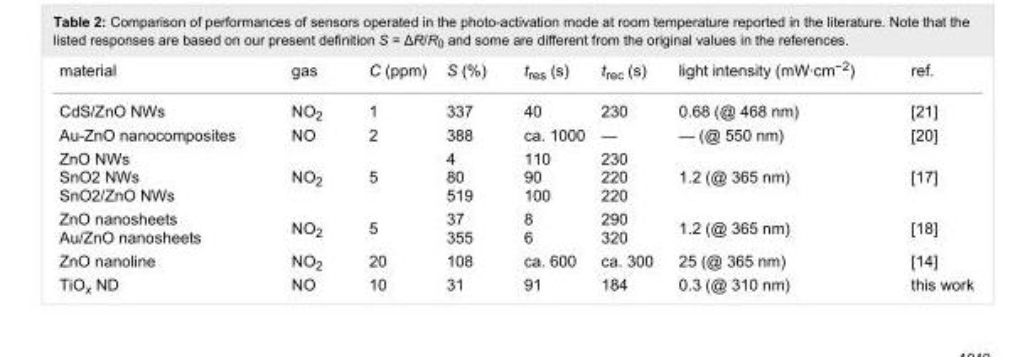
<table><tbody><tr><td>material</td><td>gas</td><td>C (ppm)</td><td>S (%)</td><td>t<sub>res</sub> (s)</td><td>t<sub>rec</sub> (s)</td><td>light intensity (mW·cm<sup>−2</sup>)</td><td>ref.</td></tr><tr><td>CdS/ZnO NWs</td><td>NO<sub>2</sub></td><td>1</td><td>337</td><td>40</td><td>230</td><td>0.68 (@ 468 nm)</td><td>[21]</td></tr><tr><td>Au-ZnO nanocomposites</td><td>NO</td><td>2</td><td>388</td><td>ca. 1000</td><td>—</td><td>— (@ 550 nm)</td><td>[20]</td></tr><tr><td>ZnO NWs SnO2 NWs SnO2/ZnO NWs</td><td>NO<sub>2</sub></td><td>5</td><td>4 80 519</td><td>110 90 100</td><td>230 220 220</td><td>1.2 (@ 365 nm)</td><td>[17]</td></tr><tr><td>ZnO nanosheets Au/ZnO nanosheets</td><td>NO<sub>2</sub></td><td>5</td><td>37 355</td><td>8 6</td><td>290 320</td><td>1.2 (@ 365 nm)</td><td>[18]</td></tr><tr><td>ZnO nanoline</td><td>NO<sub>2</sub></td><td>20</td><td>108</td><td>ca. 600</td><td>ca. 300</td><td>25 (@ 365 nm)</td><td>[14]</td></tr><tr><td>TiO<sub>x</sub> ND</td><td>NO</td><td>10</td><td>31</td><td>91</td><td>184</td><td>0.3 (@ 310 nm)</td><td>this work</td></tr></tbody></table>